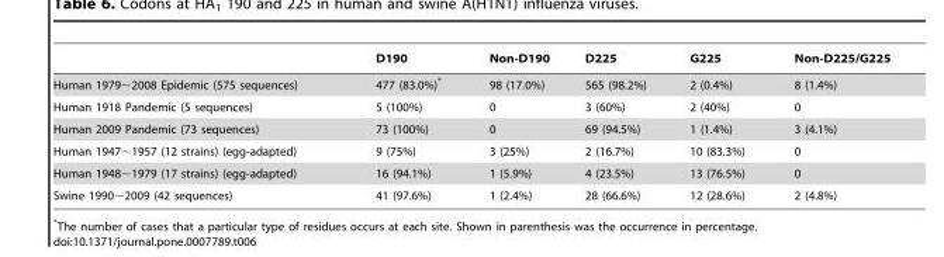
<table><thead><tr><td></td><td>D190</td><td>Non-D190</td><td>D225</td><td>G225</td><td>Non-D225/G225</td></tr></thead><tbody><tr><td>Human 1979∼2008 Epidemic (575 sequences)</td><td>477 (83.0%)*</td><td>98 (17.0%)</td><td>565 (98.2%)</td><td>2 (0.4%)</td><td>8 (1.4%)</td></tr><tr><td>Human 1918 Pandemic (5 sequences)</td><td>5 (100%)</td><td>0</td><td>3 (60%)</td><td>2 (40%)</td><td>0</td></tr><tr><td>Human 2009 Pandemic (73 sequences)</td><td>73 (100%)</td><td>0</td><td>69 (94.5%)</td><td>1 (1.4%)</td><td>3 (4.1%)</td></tr><tr><td>Human 1947∼1957 (12 strains) (egg-adapted)</td><td>9 (75%)</td><td>3 (25%)</td><td>2 (16.7%)</td><td>10 (83.3%)</td><td>0</td></tr><tr><td>Human 1948∼1979 (17 strains) (egg-adapted)</td><td>16 (94.1%)</td><td>1 (5.9%)</td><td>4 (23.5%)</td><td>13 (76.5%)</td><td>0</td></tr><tr><td>Swine 1990∼2009 (42 sequences)</td><td>41 (97.6%)</td><td>1 (2.4%)</td><td>28 (66.6%)</td><td>12 (28.6%)</td><td>2 (4.8%)</td></tr></tbody></table>